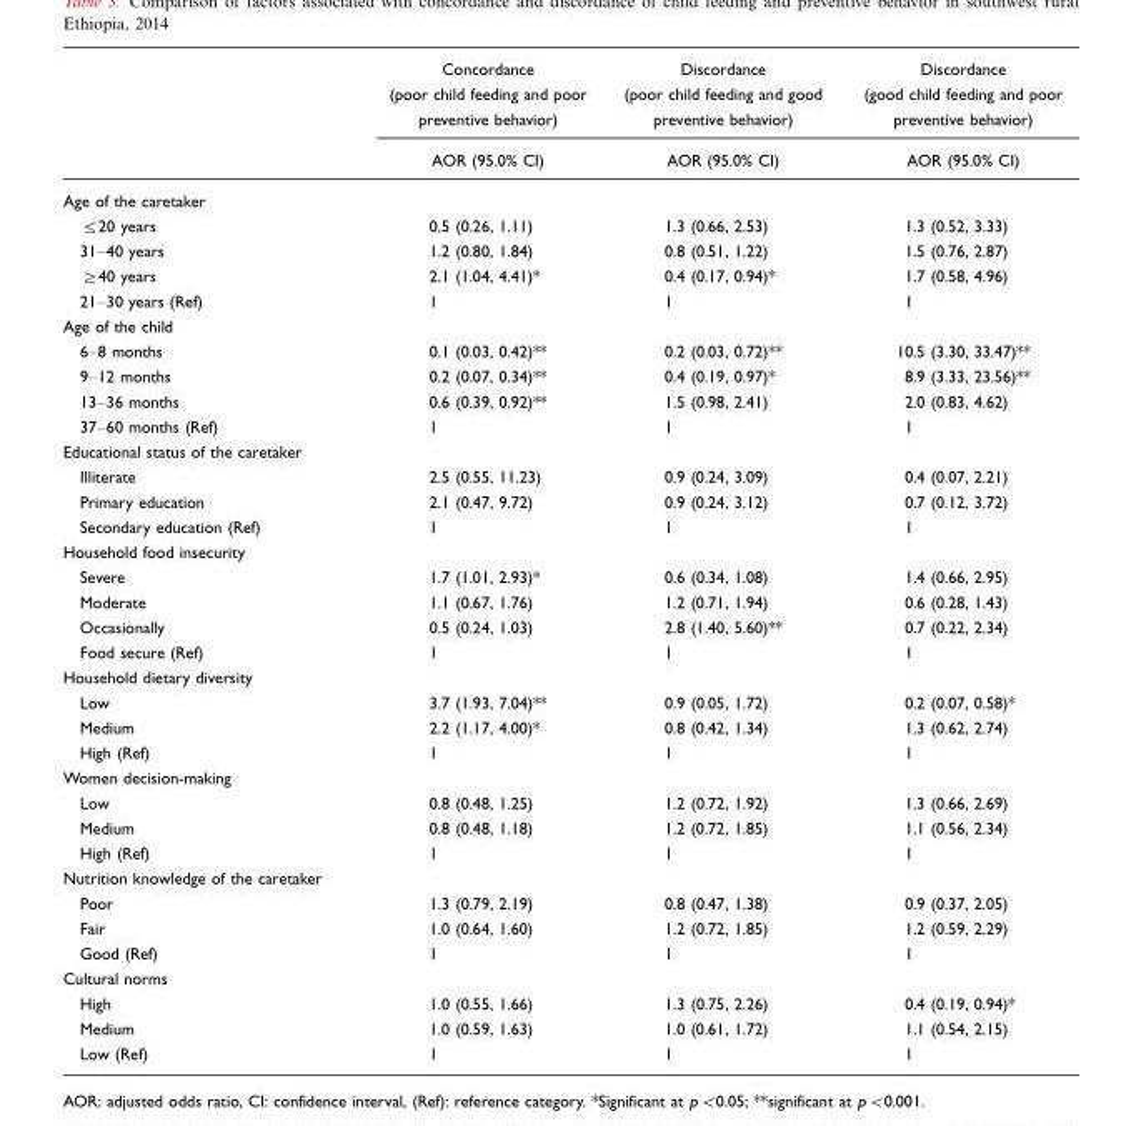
<table><thead><tr><td rowspan="2"></td><td rowspan="2">Concordance (poor child feeding and poor preventive behavior) AOR (95.0% CI)</td><td rowspan="2">Discordance (poor child feeding and good preventive behavior) AOR (95.0% CI)</td><td rowspan="2">Discordance (good child feeding and poor preventive behavior) AOR (95.0% CI)</td></tr><tr></tr></thead><tbody><tr><td colspan="4">Age of the caretaker</td></tr><tr><td>≤20 years</td><td>0.5 (0.26, 1.11)</td><td>1.3 (0.66, 2.53)</td><td>1.3 (0.52, 3.33)</td></tr><tr><td>31–40 years</td><td>1.2 (0.80, 1.84)</td><td>0.8 (0.51, 1.22)</td><td>1.5 (0.76, 2.87)</td></tr><tr><td>≥40 years</td><td>2.1 (1.04, 4.41)*</td><td>0.4 (0.17, 0.94)*</td><td>1.7 (0.58, 4.96)</td></tr><tr><td>21–30 years (Ref)</td><td>1</td><td>1</td><td>1</td></tr><tr><td colspan="4">Age of the child</td></tr><tr><td>6–8 months</td><td>0.1 (0.03, 0.42)**</td><td>0.2 (0.03, 0.72)**</td><td>10.5 (3.30, 33.47)**</td></tr><tr><td>9–12 months</td><td>0.2 (0.07, 0.34)**</td><td>0.4 (0.19, 0.97)*</td><td>8.9 (3.33, 23.56)**</td></tr><tr><td>13–36 months</td><td>0.6 (0.39, 0.92)**</td><td>1.5 (0.98, 2.41)</td><td>2.0 (0.83, 4.62)</td></tr><tr><td>37–60 months (Ref)</td><td>1</td><td>1</td><td>1</td></tr><tr><td colspan="4">Educational status of the caretaker</td></tr><tr><td>Illiterate</td><td>2.5 (0.55, 11.23)</td><td>0.9 (0.24, 3.09)</td><td>0.4 (0.07, 2.21)</td></tr><tr><td>Primary education</td><td>2.1 (0.47, 9.72)</td><td>0.9 (0.24, 3.12)</td><td>0.7 (0.12, 3.72)</td></tr><tr><td>Secondary education (Ref)</td><td>1</td><td>1</td><td>1</td></tr><tr><td colspan="4">Household food insecurity</td></tr><tr><td>Severe</td><td>1.7 (1.01, 2.93)*</td><td>0.6 (0.34, 1.08)</td><td>1.4 (0.66, 2.95)</td></tr><tr><td>Moderate</td><td>1.1 (0.67, 1.76)</td><td>1.2 (0.71, 1.94)</td><td>0.6 (0.28, 1.43)</td></tr><tr><td>Occasionally</td><td>0.5 (0.24, 1.03)</td><td>2.8 (1.40, 5.60)**</td><td>0.7 (0.22, 2.34)</td></tr><tr><td>Food secure (Ref)</td><td>1</td><td>1</td><td>1</td></tr><tr><td colspan="4">Household dietary diversity</td></tr><tr><td>Low</td><td>3.7 (1.93, 7.04)**</td><td>0.9 (0.05, 1.72)</td><td>0.2 (0.07, 0.58)*</td></tr><tr><td>Medium</td><td>2.2 (1.17, 4.00)*</td><td>0.8 (0.42, 1.34)</td><td>1.3 (0.62, 2.74)</td></tr><tr><td>High (Ref)</td><td>1</td><td>1</td><td>1</td></tr><tr><td colspan="4">Women decision-making</td></tr><tr><td>Low</td><td>0.8 (0.48, 1.25)</td><td>1.2 (0.72, 1.92)</td><td>1.3 (0.66, 2.69)</td></tr><tr><td>Medium</td><td>0.8 (0.48, 1.18)</td><td>1.2 (0.72, 1.85)</td><td>1.1 (0.56, 2.34)</td></tr><tr><td>High (Ref)</td><td>1</td><td>1</td><td>1</td></tr><tr><td colspan="4">Nutrition knowledge of the caretaker</td></tr><tr><td>Poor</td><td>1.3 (0.79, 2.19)</td><td>0.8 (0.47, 1.38)</td><td>0.9 (0.37, 2.05)</td></tr><tr><td>Fair</td><td>1.0 (0.64, 1.60)</td><td>1.2 (0.72, 1.85)</td><td>1.2 (0.59, 2.29)</td></tr><tr><td>Good (Ref)</td><td>1</td><td>1</td><td>1</td></tr><tr><td colspan="4">Cultural norms</td></tr><tr><td>High</td><td>1.0 (0.55, 1.66)</td><td>1.3 (0.75, 2.26)</td><td>0.4 (0.19, 0.94)*</td></tr><tr><td>Medium</td><td>1.0 (0.59, 1.63)</td><td>1.0 (0.61, 1.72)</td><td>1.1 (0.54, 2.15)</td></tr><tr><td>Low (Ref)</td><td>1</td><td>1</td><td>1</td></tr></tbody></table>